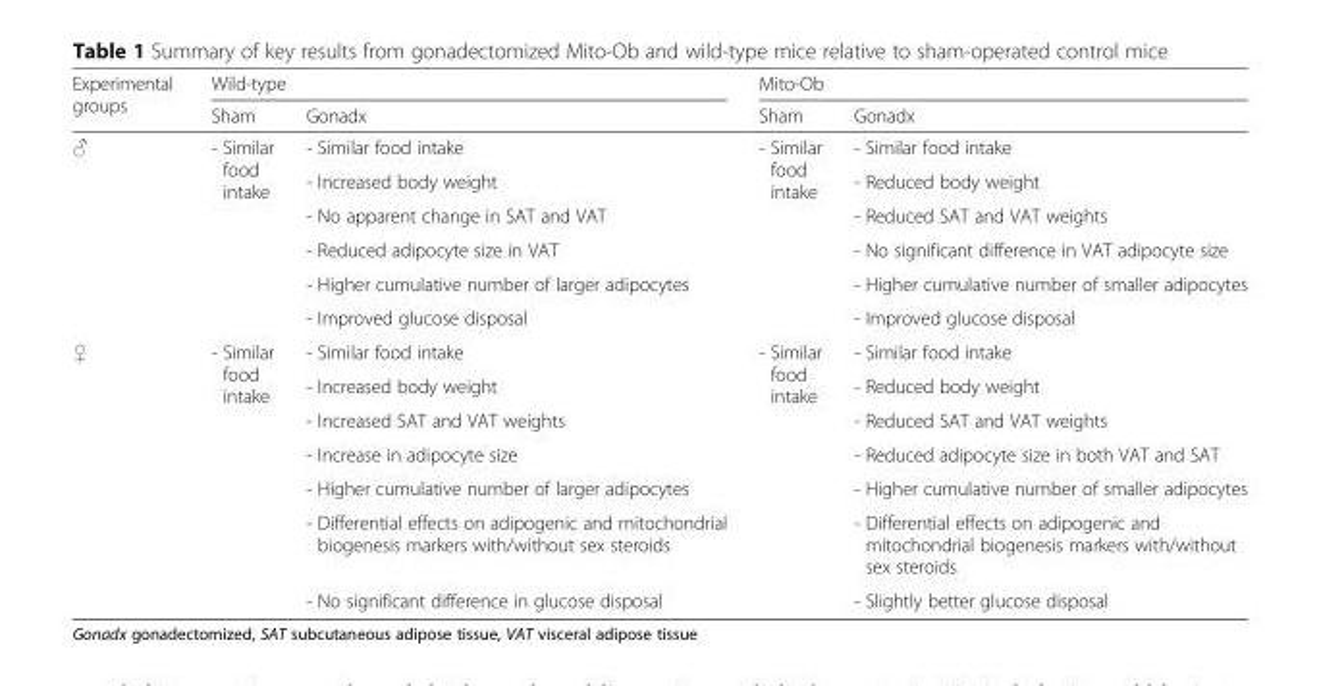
<table><thead><tr><td rowspan="2">Experimental groups</td><td colspan="2">Wild-type</td><td colspan="2">Mito-Ob</td></tr><tr><td>Sham</td><td>Gonadx</td><td>Sham</td><td>Gonadx</td></tr></thead><tbody><tr><td rowspan="6">♂</td><td rowspan="6">- Similar food intake</td><td>- Similar food intake</td><td rowspan="6">- Similar food intake</td><td>- Similar food intake</td></tr><tr><td>- Increased body weight</td><td>- Reduced body weight</td></tr><tr><td>- No apparent change in SAT and VAT</td><td>- Reduced SAT and VAT weights</td></tr><tr><td>- Reduced adipocyte size in VAT</td><td>- No significant difference in VAT adipocyte size</td></tr><tr><td>- Higher cumulative number of larger adipocytes</td><td>- Higher cumulative number of smaller adipocytes</td></tr><tr><td>- Improved glucose disposal</td><td>- Improved glucose disposal</td></tr><tr><td rowspan="7">♀</td><td rowspan="7">- Similar food intake</td><td>- Similar food intake</td><td rowspan="7">- Similar food intake</td><td>- Similar food intake</td></tr><tr><td>- Increased body weight</td><td>- Reduced body weight</td></tr><tr><td>- Increased SAT and VAT weights</td><td>- Reduced SAT and VAT weights</td></tr><tr><td>- Increase in adipocyte size</td><td>- Reduced adipocyte size in both VAT and SAT</td></tr><tr><td>- Higher cumulative number of larger adipocytes</td><td>- Higher cumulative number of smaller adipocytes</td></tr><tr><td>- Differential effects on adipogenic and mitochondrial biogenesis markers with/without sex steroids</td><td>- Differential effects on adipogenic and mitochondrial biogenesis markers with/without sex steroids</td></tr><tr><td>- No significant difference in glucose disposal</td><td>- Slightly better glucose disposal</td></tr></tbody></table>